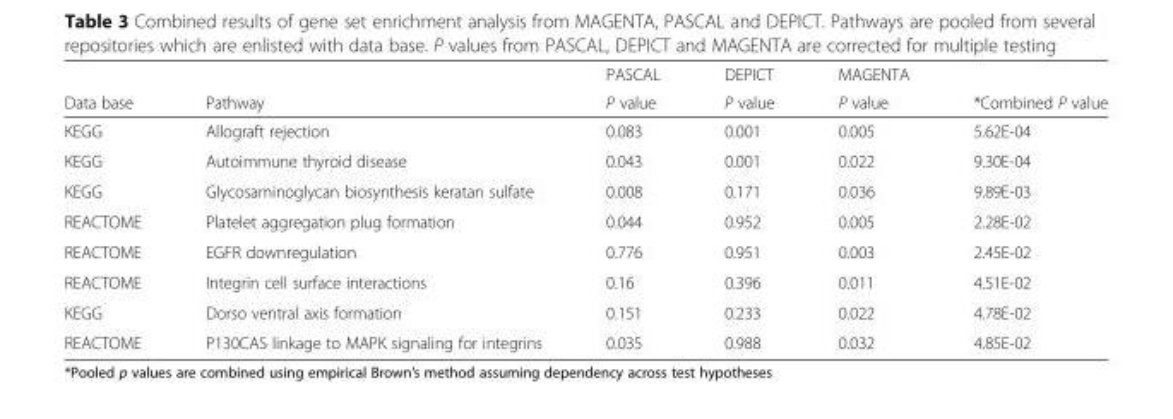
<table><thead><tr><td rowspan="2">Data base</td><td rowspan="2">Pathway</td><td rowspan="2">PASCAL P value</td><td rowspan="2">DEPICT P value</td><td rowspan="2">MAGENTA P value</td><td rowspan="2">*Combined P value</td></tr><tr></tr></thead><tbody><tr><td>KEGG</td><td>Allograft rejection</td><td>0.083</td><td>0.001</td><td>0.005</td><td>5.62E-04</td></tr><tr><td>KEGG</td><td>Autoimmune thyroid disease</td><td>0.043</td><td>0.001</td><td>0.022</td><td>9.30E-04</td></tr><tr><td>KEGG</td><td>Glycosaminoglycan biosynthesis keratan sulfate</td><td>0.008</td><td>0.171</td><td>0.036</td><td>9.89E-03</td></tr><tr><td>REACTOME</td><td>Platelet aggregation plug formation</td><td>0.044</td><td>0.952</td><td>0.005</td><td>2.28E-02</td></tr><tr><td>REACTOME</td><td>EGFR downregulation</td><td>0.776</td><td>0.951</td><td>0.003</td><td>2.45E-02</td></tr><tr><td>REACTOME</td><td>Integrin cell surface interactions</td><td>0.16</td><td>0.396</td><td>0.011</td><td>4.51E-02</td></tr><tr><td>KEGG</td><td>Dorso ventral axis formation</td><td>0.151</td><td>0.233</td><td>0.022</td><td>4.78E-02</td></tr><tr><td>REACTOME</td><td>P130CAS linkage to MAPK signaling for integrins</td><td>0.035</td><td>0.988</td><td>0.032</td><td>4.85E-02</td></tr></tbody></table>